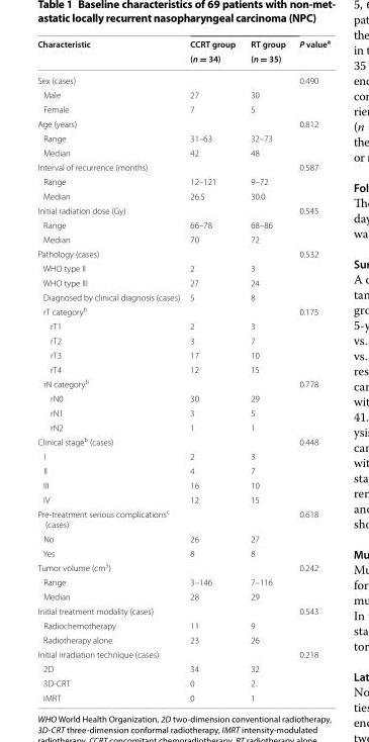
<table><thead><tr><td rowspan="2">Characteristic</td><td rowspan="2">CCRT group (n = 34)</td><td rowspan="2">RT group (n = 35)</td><td rowspan="2">P value<sup>a</sup></td></tr><tr></tr></thead><tbody><tr><td>Sex (cases)</td><td></td><td></td><td>0.490</td></tr><tr><td>Male</td><td>27</td><td>30</td><td></td></tr><tr><td>Female</td><td>7</td><td>5</td><td></td></tr><tr><td>Age (years)</td><td></td><td></td><td>0.812</td></tr><tr><td>Range</td><td>31–63</td><td>32–73</td><td></td></tr><tr><td>Median</td><td>42</td><td>48</td><td></td></tr><tr><td>Interval of recurrence (months)</td><td></td><td></td><td>0.587</td></tr><tr><td>Range</td><td>12–121</td><td>9–72</td><td></td></tr><tr><td>Median</td><td>26.5</td><td>30.0</td><td></td></tr><tr><td>Initial radiation dose (Gy)</td><td></td><td></td><td>0.545</td></tr><tr><td>Range</td><td>66–78</td><td>68–86</td><td></td></tr><tr><td>Median</td><td>70</td><td>72</td><td></td></tr><tr><td>Pathology (cases)</td><td></td><td></td><td>0.532</td></tr><tr><td>WHO type II</td><td>2</td><td>3</td><td></td></tr><tr><td>WHO type III</td><td>27</td><td>24</td><td></td></tr><tr><td>Diagnosed by clinical diagnosis (cases)</td><td>5</td><td>8</td><td></td></tr><tr><td>rT category<sup>b</sup></td><td></td><td></td><td>0.175</td></tr><tr><td>rT1</td><td>2</td><td>3</td><td></td></tr><tr><td>rT2</td><td>3</td><td>7</td><td></td></tr><tr><td>rT3</td><td>17</td><td>10</td><td></td></tr><tr><td>rT4</td><td>12</td><td>15</td><td></td></tr><tr><td>rN category<sup>b</sup></td><td></td><td></td><td>0.778</td></tr><tr><td>rN0</td><td>30</td><td>29</td><td></td></tr><tr><td>rN1</td><td>3</td><td>5</td><td></td></tr><tr><td>rN2</td><td>1</td><td>1</td><td></td></tr><tr><td>Clinical stage<sup>b</sup> (cases)</td><td></td><td></td><td>0.448</td></tr><tr><td>I</td><td>2</td><td>3</td><td></td></tr><tr><td>II</td><td>4</td><td>7</td><td></td></tr><tr><td>III</td><td>16</td><td>10</td><td></td></tr><tr><td>IV</td><td>12</td><td>15</td><td></td></tr><tr><td>Pre‑treatment serious complications<sup>c</sup> (cases)</td><td></td><td></td><td>0.618</td></tr><tr><td>No</td><td>26</td><td>27</td><td></td></tr><tr><td>Yes</td><td>8</td><td>8</td><td></td></tr><tr><td>Tumor volume (cm<sup>3</sup>)</td><td></td><td></td><td>0.242</td></tr><tr><td>Range</td><td>3–146</td><td>7–116</td><td></td></tr><tr><td>Median</td><td>28</td><td>29</td><td></td></tr><tr><td>Initial treatment modality (cases)</td><td></td><td></td><td>0.543</td></tr><tr><td>Radiochemotherapy</td><td>11</td><td>9</td><td></td></tr><tr><td>Radiotherapy alone</td><td>23</td><td>26</td><td></td></tr><tr><td>Initial irradiation technique (cases)</td><td></td><td></td><td>0.218</td></tr><tr><td>2D</td><td>34</td><td>32</td><td></td></tr><tr><td>3D‑CRT</td><td>0</td><td>2</td><td></td></tr><tr><td>IMRT</td><td>0</td><td>1</td><td></td></tr></tbody></table>